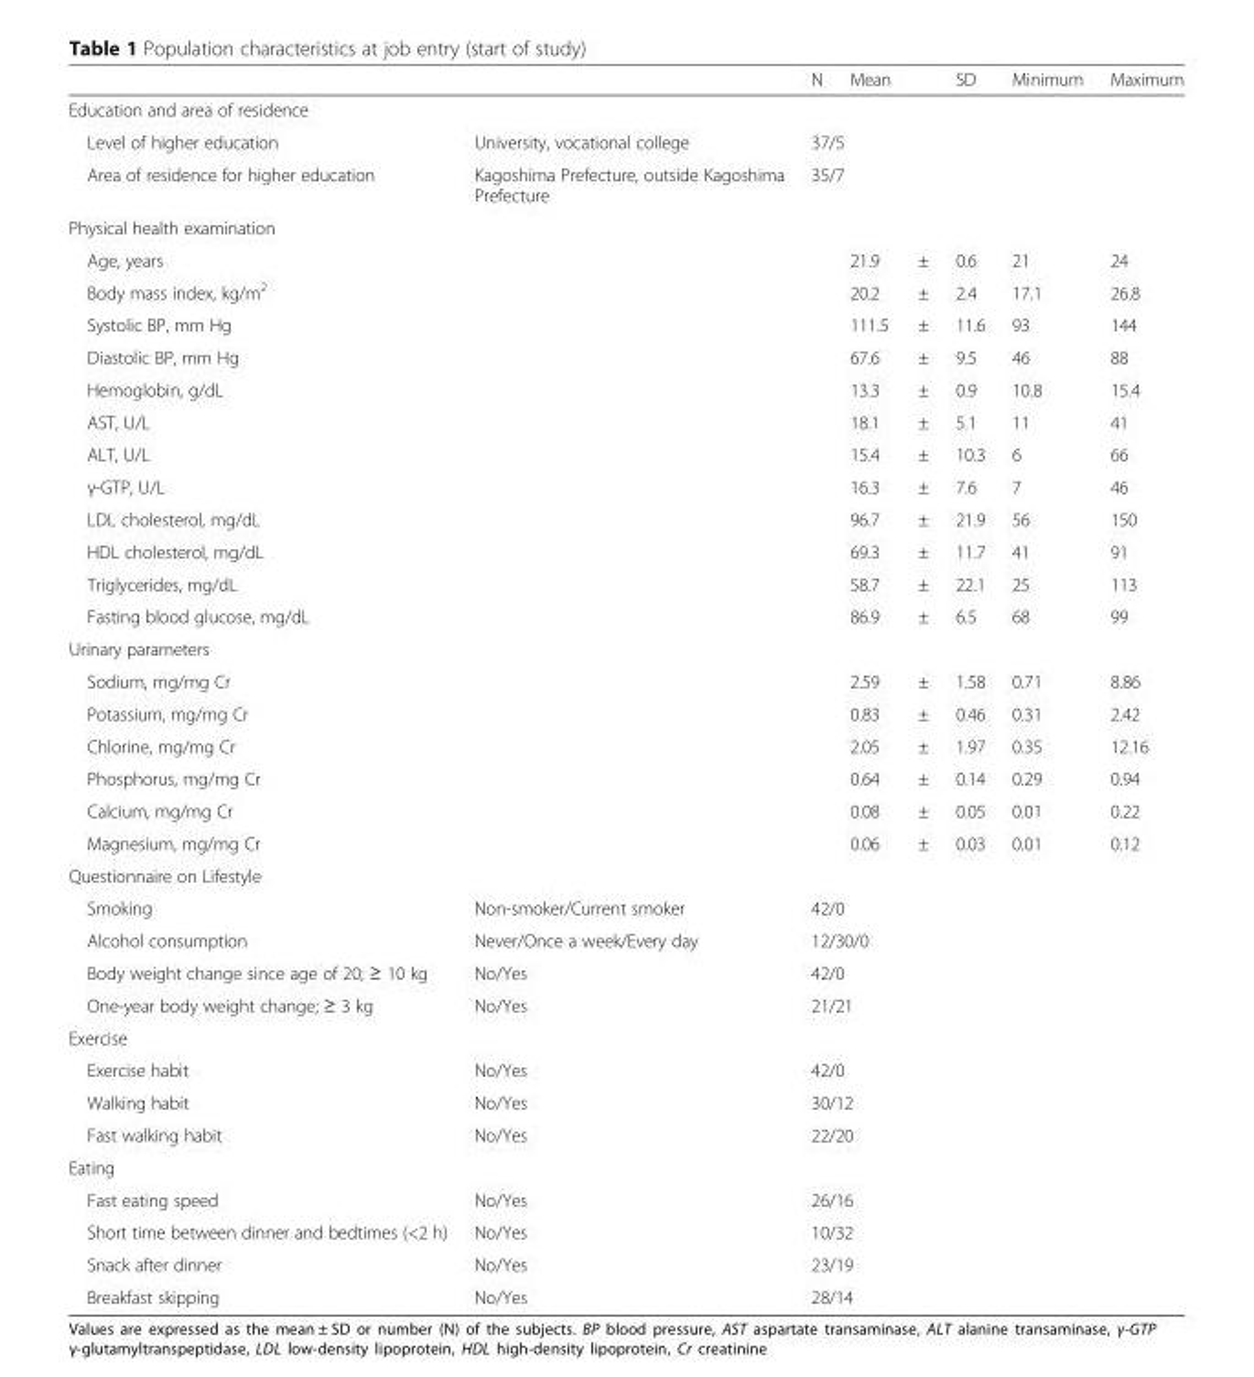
<table><thead><tr><td></td><td></td><td>N</td><td>Mean</td><td></td><td>SD</td><td>Minimum</td><td>Maximum</td></tr></thead><tbody><tr><td colspan="8">Education and area of residence</td></tr><tr><td>Level of higher education</td><td>University, vocational college</td><td colspan="2">37/5</td><td></td><td></td><td></td><td></td></tr><tr><td>Area of residence for higher education</td><td>Kagoshima Prefecture, outside Kagoshima Prefecture</td><td colspan="2">35/7</td><td></td><td></td><td></td><td></td></tr><tr><td colspan="8">Physical health examination</td></tr><tr><td>Age, years</td><td></td><td></td><td>21.9</td><td>±</td><td>0.6</td><td>21</td><td>24</td></tr><tr><td>Body mass index, kg/m<sup>2</sup></td><td></td><td></td><td>20.2</td><td>±</td><td>2.4</td><td>17.1</td><td>26.8</td></tr><tr><td>Systolic BP, mm Hg</td><td></td><td></td><td>111.5</td><td>±</td><td>11.6</td><td>93</td><td>144</td></tr><tr><td>Diastolic BP, mm Hg</td><td></td><td></td><td>67.6</td><td>±</td><td>9.5</td><td>46</td><td>88</td></tr><tr><td>Hemoglobin, g/dL</td><td></td><td></td><td>13.3</td><td>±</td><td>0.9</td><td>10.8</td><td>15.4</td></tr><tr><td>AST, U/L</td><td></td><td></td><td>18.1</td><td>±</td><td>5.1</td><td>11</td><td>41</td></tr><tr><td>ALT, U/L</td><td></td><td></td><td>15.4</td><td>±</td><td>10.3</td><td>6</td><td>66</td></tr><tr><td>γ-GTP, U/L</td><td></td><td></td><td>16.3</td><td>±</td><td>7.6</td><td>7</td><td>46</td></tr><tr><td>LDL cholesterol, mg/dL</td><td></td><td></td><td>96.7</td><td>±</td><td>21.9</td><td>56</td><td>150</td></tr><tr><td>HDL cholesterol, mg/dL</td><td></td><td></td><td>69.3</td><td>±</td><td>11.7</td><td>41</td><td>91</td></tr><tr><td>Triglycerides, mg/dL</td><td></td><td></td><td>58.7</td><td>±</td><td>22.1</td><td>25</td><td>113</td></tr><tr><td>Fasting blood glucose, mg/dL</td><td></td><td></td><td>86.9</td><td>±</td><td>6.5</td><td>68</td><td>99</td></tr><tr><td colspan="8">Urinary parameters</td></tr><tr><td>Sodium, mg/mg Cr</td><td></td><td></td><td>2.59</td><td>±</td><td>1.58</td><td>0.71</td><td>8.86</td></tr><tr><td>Potassium, mg/mg Cr</td><td></td><td></td><td>0.83</td><td>±</td><td>0.46</td><td>0.31</td><td>2.42</td></tr><tr><td>Chlorine, mg/mg Cr</td><td></td><td></td><td>2.05</td><td>±</td><td>1.97</td><td>0.35</td><td>12.16</td></tr><tr><td>Phosphorus, mg/mg Cr</td><td></td><td></td><td>0.64</td><td>±</td><td>0.14</td><td>0.29</td><td>0.94</td></tr><tr><td>Calcium, mg/mg Cr</td><td></td><td></td><td>0.08</td><td>±</td><td>0.05</td><td>0.01</td><td>0.22</td></tr><tr><td>Magnesium, mg/mg Cr</td><td></td><td></td><td>0.06</td><td>±</td><td>0.03</td><td>0.01</td><td>0.12</td></tr><tr><td colspan="8">Questionnaire on Lifestyle</td></tr><tr><td>Smoking</td><td>Non-smoker/Current smoker</td><td colspan="2">42/0</td><td></td><td></td><td></td><td></td></tr><tr><td>Alcohol consumption</td><td>Never/Once a week/Every day</td><td colspan="2">12/30/0</td><td></td><td></td><td></td><td></td></tr><tr><td>Body weight change since age of 20; ≥ 10 kg</td><td>No/Yes</td><td colspan="2">42/0</td><td></td><td></td><td></td><td></td></tr><tr><td>One-year body weight change; ≥ 3 kg</td><td>No/Yes</td><td colspan="2">21/21</td><td></td><td></td><td></td><td></td></tr><tr><td colspan="8">Exercise</td></tr><tr><td>Exercise habit</td><td>No/Yes</td><td colspan="2">42/0</td><td></td><td></td><td></td><td></td></tr><tr><td>Walking habit</td><td>No/Yes</td><td colspan="2">30/12</td><td></td><td></td><td></td><td></td></tr><tr><td>Fast walking habit</td><td>No/Yes</td><td colspan="2">22/20</td><td></td><td></td><td></td><td></td></tr><tr><td colspan="8">Eating</td></tr><tr><td>Fast eating speed</td><td>No/Yes</td><td colspan="2">26/16</td><td></td><td></td><td></td><td></td></tr><tr><td>Short time between dinner and bedtimes (&lt;2 h)</td><td>No/Yes</td><td colspan="2">10/32</td><td></td><td></td><td></td><td></td></tr><tr><td>Snack after dinner</td><td>No/Yes</td><td colspan="2">23/19</td><td></td><td></td><td></td><td></td></tr><tr><td>Breakfast skipping</td><td>No/Yes</td><td colspan="2">28/14</td><td></td><td></td><td></td><td></td></tr></tbody></table>